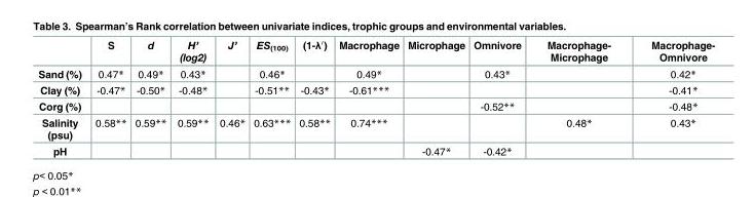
<table><thead><tr><td></td><td>S</td><td>d</td><td>H’ (log2)</td><td>J’</td><td>ES<sub>(100)</sub></td><td>(1-λ′)</td><td>Macrophage</td><td>Microphage</td><td>Omnivore</td><td>Macrophage- Microphage</td><td>Macrophage- Omnivore</td></tr></thead><tbody><tr><td>Sand (%)</td><td>0.47*</td><td>0.49*</td><td>0.43*</td><td></td><td>0.46*</td><td></td><td>0.49*</td><td></td><td>0.43*</td><td></td><td>0.42*</td></tr><tr><td>Clay (%)</td><td>-0.47*</td><td>-0.50*</td><td>-0.48*</td><td></td><td>-0.51**</td><td>-0.43*</td><td>-0.61***</td><td></td><td></td><td></td><td>-0.41*</td></tr><tr><td>Corg (%)</td><td></td><td></td><td></td><td></td><td></td><td></td><td></td><td></td><td>-0.52**</td><td></td><td>-0.48*</td></tr><tr><td>Salinity (psu)</td><td>0.58**</td><td>0.59**</td><td>0.59**</td><td>0.46*</td><td>0.63***</td><td>0.58**</td><td>0.74***</td><td></td><td></td><td>0.48*</td><td>0.43*</td></tr><tr><td>pH</td><td></td><td></td><td></td><td></td><td></td><td></td><td></td><td>-0.47*</td><td>-0.42*</td><td></td><td></td></tr></tbody></table>